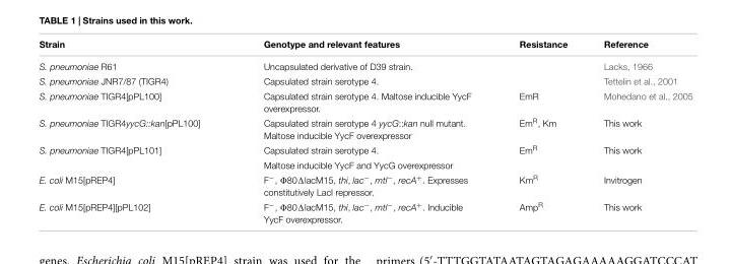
<table><thead><tr><td>Strain</td><td>Genotype and relevant features</td><td>Resistance</td><td>Reference</td></tr></thead><tbody><tr><td>S. pneumoniae R61</td><td>Uncapsulated derivative of D39 strain.</td><td></td><td>Lacks, 1966</td></tr><tr><td>S. pneumoniae JNR7/87 (TIGR4)</td><td>Capsulated strain serotype 4.</td><td></td><td>Tettelin et al., 2001</td></tr><tr><td>S. pneumoniae TIGR4[pPL100]</td><td>Capsulated strain serotype 4. Maltose inducible YycF overexpressor.</td><td>EmR</td><td>Mohedano et al., 2005</td></tr><tr><td>S. pneumoniae TIGR4yycG::kan[pPL100]</td><td>Capsulated strain serotype 4 yycG::kan null mutant. Maltose inducible YycF overexpressor</td><td>Em<sup>R</sup>, Km</td><td>This work</td></tr><tr><td rowspan="2">S. pneumoniae TIGR4[pPL101]</td><td>Capsulated strain serotype 4.</td><td>Em<sup>R</sup></td><td>This work</td></tr><tr><td>Maltose inducible YycF and YycG overexpressor</td><td></td><td></td></tr><tr><td>E. coli M15[pREP4]</td><td>F<sup>−</sup>, Φ80ΔlacM15, thi, lac<sup>−</sup>, mtl<sup>−</sup>, recA<sup>+</sup>. Expresses constitutively LacI repressor.</td><td>Km<sup>R</sup></td><td>Invitrogen</td></tr><tr><td>E. coli M15[pREP4][pPL102]</td><td>F<sup>−</sup>, Φ80ΔlacM15, thi, lac<sup>−</sup>, mtl<sup>−</sup>, recA<sup>+</sup>. Inducible YycF overexpressor.</td><td>Amp<sup>R</sup></td><td>This work</td></tr></tbody></table>